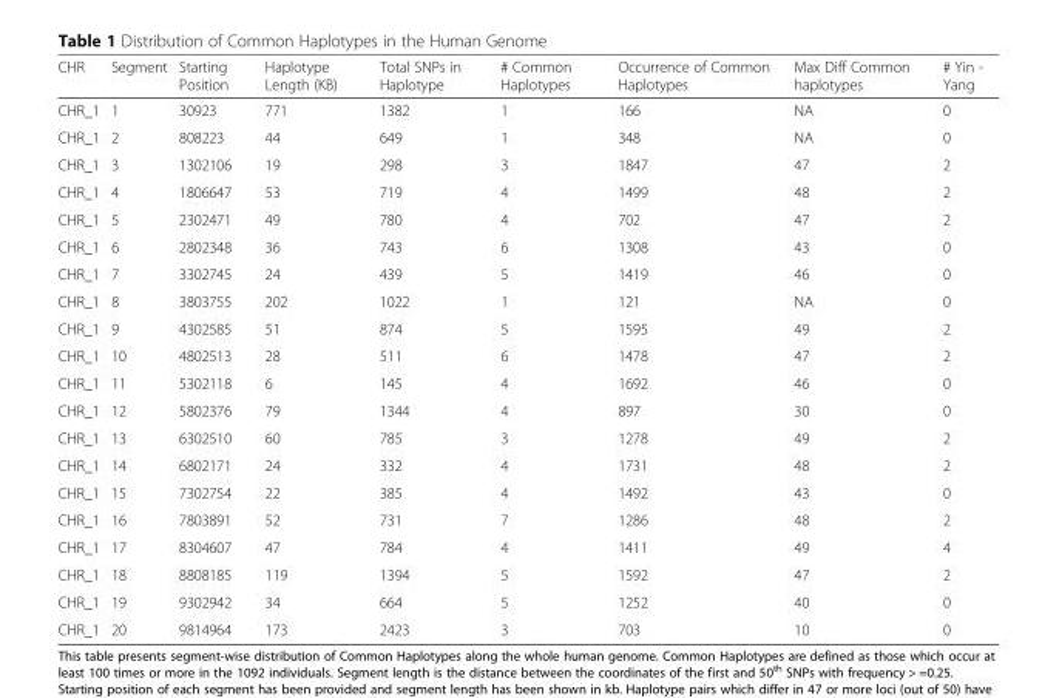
<table><thead><tr><td>CHR</td><td>Segment</td><td>Starting Position</td><td>Haplotype Length (KB)</td><td>Total SNPs in Haplotype</td><td># Common Haplotypes</td><td>Occurrence of Common Haplotypes</td><td>Max Diff Common haplotypes</td><td># Yin - Yang</td></tr></thead><tbody><tr><td>CHR_1</td><td>1</td><td>30923</td><td>771</td><td>1382</td><td>1</td><td>166</td><td>NA</td><td>0</td></tr><tr><td>CHR_1</td><td>2</td><td>808223</td><td>44</td><td>649</td><td>1</td><td>348</td><td>NA</td><td>0</td></tr><tr><td>CHR_1</td><td>3</td><td>1302106</td><td>19</td><td>298</td><td>3</td><td>1847</td><td>47</td><td>2</td></tr><tr><td>CHR_1</td><td>4</td><td>1806647</td><td>53</td><td>719</td><td>4</td><td>1499</td><td>48</td><td>2</td></tr><tr><td>CHR_1</td><td>5</td><td>2302471</td><td>49</td><td>780</td><td>4</td><td>702</td><td>47</td><td>2</td></tr><tr><td>CHR_1</td><td>6</td><td>2802348</td><td>36</td><td>743</td><td>6</td><td>1308</td><td>43</td><td>0</td></tr><tr><td>CHR_1</td><td>7</td><td>3302745</td><td>24</td><td>439</td><td>5</td><td>1419</td><td>46</td><td>0</td></tr><tr><td>CHR_1</td><td>8</td><td>3803755</td><td>202</td><td>1022</td><td>1</td><td>121</td><td>NA</td><td>0</td></tr><tr><td>CHR_1</td><td>9</td><td>4302585</td><td>51</td><td>874</td><td>5</td><td>1595</td><td>49</td><td>2</td></tr><tr><td>CHR_1</td><td>10</td><td>4802513</td><td>28</td><td>511</td><td>6</td><td>1478</td><td>47</td><td>2</td></tr><tr><td>CHR_1</td><td>11</td><td>5302118</td><td>6</td><td>145</td><td>4</td><td>1692</td><td>46</td><td>0</td></tr><tr><td>CHR_1</td><td>12</td><td>5802376</td><td>79</td><td>1344</td><td>4</td><td>897</td><td>30</td><td>0</td></tr><tr><td>CHR_1</td><td>13</td><td>6302510</td><td>60</td><td>785</td><td>3</td><td>1278</td><td>49</td><td>2</td></tr><tr><td>CHR_1</td><td>14</td><td>6802171</td><td>24</td><td>332</td><td>4</td><td>1731</td><td>48</td><td>2</td></tr><tr><td>CHR_1</td><td>15</td><td>7302754</td><td>22</td><td>385</td><td>4</td><td>1492</td><td>43</td><td>0</td></tr><tr><td>CHR_1</td><td>16</td><td>7803891</td><td>52</td><td>731</td><td>7</td><td>1286</td><td>48</td><td>2</td></tr><tr><td>CHR_1</td><td>17</td><td>8304607</td><td>47</td><td>784</td><td>4</td><td>1411</td><td>49</td><td>4</td></tr><tr><td>CHR_1</td><td>18</td><td>8808185</td><td>119</td><td>1394</td><td>5</td><td>1592</td><td>47</td><td>2</td></tr><tr><td>CHR_1</td><td>19</td><td>9302942</td><td>34</td><td>664</td><td>5</td><td>1252</td><td>40</td><td>0</td></tr><tr><td>CHR_1</td><td>20</td><td>9814964</td><td>173</td><td>2423</td><td>3</td><td>703</td><td>10</td><td>0</td></tr></tbody></table>